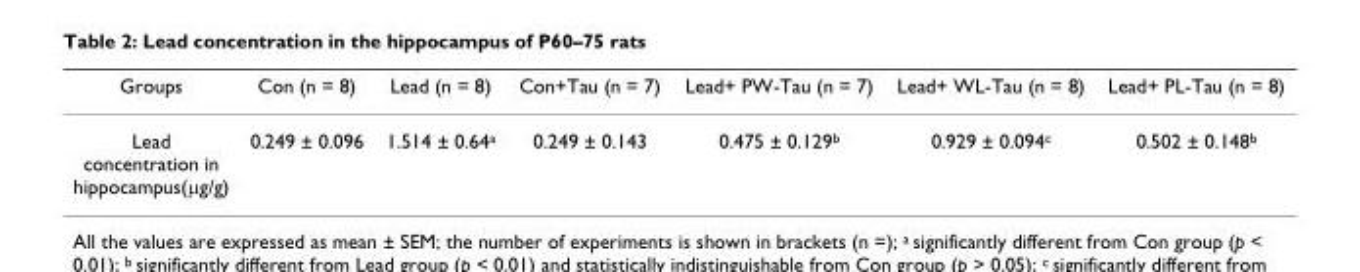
<table><thead><tr><td>Groups</td><td>Con (n = 8)</td><td>Lead (n = 8)</td><td>Con+Tau (n = 7)</td><td>Lead+ PW-Tau (n = 7)</td><td>Lead+ WL-Tau (n = 8)</td><td>Lead+ PL-Tau (n = 8)</td></tr></thead><tbody><tr><td>Lead concentration in hippocampus(µg/g)</td><td>0.249 ± 0.096</td><td>1.514 ± 0.64<sup>a</sup></td><td>0.249 ± 0.143</td><td>0.475 ± 0.129<sup>b</sup></td><td>0.929 ± 0.094<sup>c</sup></td><td>0.502 ± 0.148<sup>b</sup></td></tr></tbody></table>